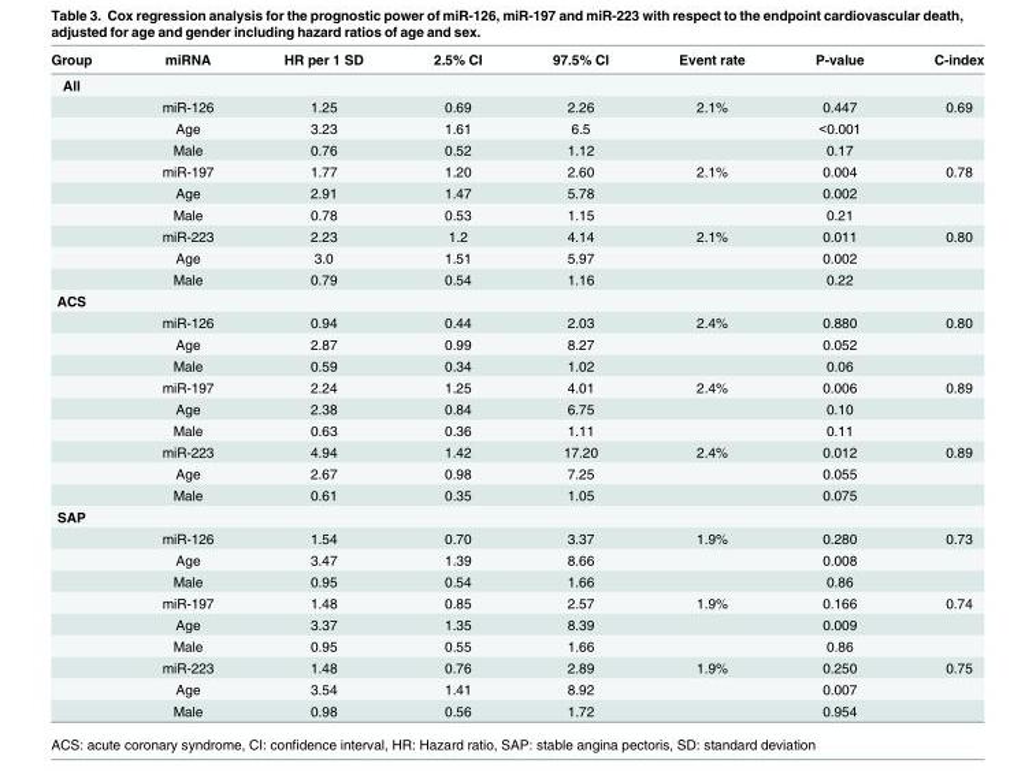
<table><thead><tr><td>Group</td><td>miRNA</td><td>HR per 1 SD</td><td>2.5% CI</td><td>97.5% CI</td><td>Event rate</td><td>P-value</td><td>C-index</td></tr></thead><tbody><tr><td colspan="8">All</td></tr><tr><td></td><td>miR-126</td><td>1.25</td><td>0.69</td><td>2.26</td><td>2.1%</td><td>0.447</td><td>0.69</td></tr><tr><td></td><td>Age</td><td>3.23</td><td>1.61</td><td>6.5</td><td></td><td>&lt;0.001</td><td></td></tr><tr><td></td><td>Male</td><td>0.76</td><td>0.52</td><td>1.12</td><td></td><td>0.17</td><td></td></tr><tr><td></td><td>miR-197</td><td>1.77</td><td>1.20</td><td>2.60</td><td>2.1%</td><td>0.004</td><td>0.78</td></tr><tr><td></td><td>Age</td><td>2.91</td><td>1.47</td><td>5.78</td><td></td><td>0.002</td><td></td></tr><tr><td></td><td>Male</td><td>0.78</td><td>0.53</td><td>1.15</td><td></td><td>0.21</td><td></td></tr><tr><td></td><td>miR-223</td><td>2.23</td><td>1.2</td><td>4.14</td><td>2.1%</td><td>0.011</td><td>0.80</td></tr><tr><td></td><td>Age</td><td>3.0</td><td>1.51</td><td>5.97</td><td></td><td>0.002</td><td></td></tr><tr><td></td><td>Male</td><td>0.79</td><td>0.54</td><td>1.16</td><td></td><td>0.22</td><td></td></tr><tr><td colspan="8">ACS</td></tr><tr><td></td><td>miR-126</td><td>0.94</td><td>0.44</td><td>2.03</td><td>2.4%</td><td>0.880</td><td>0.80</td></tr><tr><td></td><td>Age</td><td>2.87</td><td>0.99</td><td>8.27</td><td></td><td>0.052</td><td></td></tr><tr><td></td><td>Male</td><td>0.59</td><td>0.34</td><td>1.02</td><td></td><td>0.06</td><td></td></tr><tr><td></td><td>miR-197</td><td>2.24</td><td>1.25</td><td>4.01</td><td>2.4%</td><td>0.006</td><td>0.89</td></tr><tr><td></td><td>Age</td><td>2.38</td><td>0.84</td><td>6.75</td><td></td><td>0.10</td><td></td></tr><tr><td></td><td>Male</td><td>0.63</td><td>0.36</td><td>1.11</td><td></td><td>0.11</td><td></td></tr><tr><td></td><td>miR-223</td><td>4.94</td><td>1.42</td><td>17.20</td><td>2.4%</td><td>0.012</td><td>0.89</td></tr><tr><td></td><td>Age</td><td>2.67</td><td>0.98</td><td>7.25</td><td></td><td>0.055</td><td></td></tr><tr><td></td><td>Male</td><td>0.61</td><td>0.35</td><td>1.05</td><td></td><td>0.075</td><td></td></tr><tr><td colspan="8">SAP</td></tr><tr><td></td><td>miR-126</td><td>1.54</td><td>0.70</td><td>3.37</td><td>1.9%</td><td>0.280</td><td>0.73</td></tr><tr><td></td><td>Age</td><td>3.47</td><td>1.39</td><td>8.66</td><td></td><td>0.008</td><td></td></tr><tr><td></td><td>Male</td><td>0.95</td><td>0.54</td><td>1.66</td><td></td><td>0.86</td><td></td></tr><tr><td></td><td>miR-197</td><td>1.48</td><td>0.85</td><td>2.57</td><td>1.9%</td><td>0.166</td><td>0.74</td></tr><tr><td></td><td>Age</td><td>3.37</td><td>1.35</td><td>8.39</td><td></td><td>0.009</td><td></td></tr><tr><td></td><td>Male</td><td>0.95</td><td>0.55</td><td>1.66</td><td></td><td>0.86</td><td></td></tr><tr><td></td><td>miR-223</td><td>1.48</td><td>0.76</td><td>2.89</td><td>1.9%</td><td>0.250</td><td>0.75</td></tr><tr><td></td><td>Age</td><td>3.54</td><td>1.41</td><td>8.92</td><td></td><td>0.007</td><td></td></tr><tr><td></td><td>Male</td><td>0.98</td><td>0.56</td><td>1.72</td><td></td><td>0.954</td><td></td></tr></tbody></table>